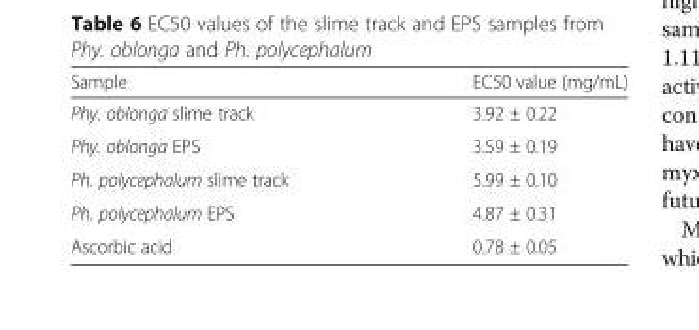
<table><thead><tr><td>Sample</td><td>EC50 value (mg/mL)</td></tr></thead><tbody><tr><td>Phy. oblonga slime track</td><td>3.92 ± 0.22</td></tr><tr><td>Phy. oblonga EPS</td><td>3.59 ± 0.19</td></tr><tr><td>Ph. polycephalum slime track</td><td>5.99 ± 0.10</td></tr><tr><td>Ph. polycephalum EPS</td><td>4.87 ± 0.31</td></tr><tr><td>Ascorbic acid</td><td>0.78 ± 0.05</td></tr></tbody></table>